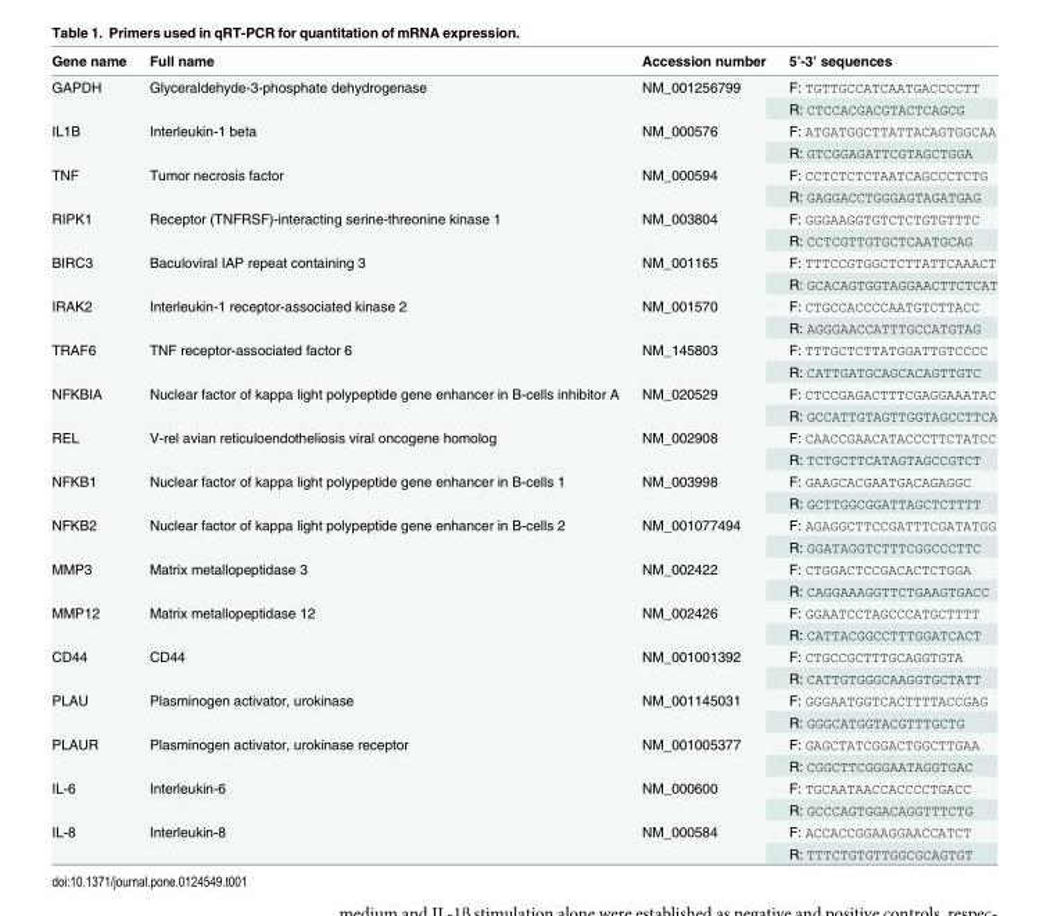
<table><thead><tr><td>Gene name</td><td>Full name</td><td>Accession number</td><td>5’-3’ sequences</td></tr></thead><tbody><tr><td rowspan="2">GAPDH</td><td rowspan="2">Glyceraldehyde-3-phosphate dehydrogenase</td><td rowspan="2">NM_001256799</td><td>F: TGTTGCCATCAATGACCCCTT</td></tr><tr><td>R: CTCCACGACGTACTCAGCG</td></tr><tr><td rowspan="2">IL1B</td><td rowspan="2">Interleukin-1 beta</td><td rowspan="2">NM_000576</td><td>F: ATGATGGCTTATTACAGTGGCAA</td></tr><tr><td>R: GTCGGAGATTCGTAGCTGGA</td></tr><tr><td rowspan="2">TNF</td><td rowspan="2">Tumor necrosis factor</td><td rowspan="2">NM_000594</td><td>F: CCTCTCTCTAATCAGCCCTCTG</td></tr><tr><td>R: GAGGACCTGGGAGTAGATGAG</td></tr><tr><td rowspan="2">RIPK1</td><td rowspan="2">Receptor (TNFRSF)-interacting serine-threonine kinase 1</td><td rowspan="2">NM_003804</td><td>F: GGGAAGGTGTCTCTGTGTTTC</td></tr><tr><td>R: CCTCGTTGTGCTCAATGCAG</td></tr><tr><td rowspan="2">BIRC3</td><td rowspan="2">Baculoviral IAP repeat containing 3</td><td rowspan="2">NM_001165</td><td>F: TTTCCGTGGCTCTTATTCAAACT</td></tr><tr><td>R: GCACAGTGGTAGGAACTTCTCAT</td></tr><tr><td rowspan="2">IRAK2</td><td rowspan="2">Interleukin-1 receptor-associated kinase 2</td><td rowspan="2">NM_001570</td><td>F: CTGCCACCCCAATGTCTTACC</td></tr><tr><td>R: AGGGAACCATTTGCCATGTAG</td></tr><tr><td rowspan="2">TRAF6</td><td rowspan="2">TNF receptor-associated factor 6</td><td rowspan="2">NM_145803</td><td>F: TTTGCTCTTATGGATTGTCCCC</td></tr><tr><td>R: CATTGATGCAGCACAGTTGTC</td></tr><tr><td rowspan="2">NFKBIA</td><td rowspan="2">Nuclear factor of kappa light polypeptide gene enhancer in B-cells inhibitor A</td><td rowspan="2">NM_020529</td><td>F: CTCCGAGACTTTCGAGGAAATAC</td></tr><tr><td>R: GCCATTGTAGTTGGTAGCCTTCA</td></tr><tr><td rowspan="2">REL</td><td rowspan="2">V-rel avian reticuloendotheliosis viral oncogene homolog</td><td rowspan="2">NM_002908</td><td>F: CAACCGAACATACCCTTCTATCC</td></tr><tr><td>R: TCTGCTTCATAGTAGCCGTCT</td></tr><tr><td rowspan="2">NFKB1</td><td rowspan="2">Nuclear factor of kappa light polypeptide gene enhancer in B-cells 1</td><td rowspan="2">NM_003998</td><td>F: GAAGCACGAATGACAGAGGC</td></tr><tr><td>R: GCTTGGCGGATTAGCTCTTTT</td></tr><tr><td rowspan="2">NFKB2</td><td rowspan="2">Nuclear factor of kappa light polypeptide gene enhancer in B-cells 2</td><td rowspan="2">NM_001077494</td><td>F: AGAGGCTTCCGATTTCGATATGG</td></tr><tr><td>R: GGATAGGTCTTTCGGCCCTTC</td></tr><tr><td rowspan="2">MMP3</td><td rowspan="2">Matrix metallopeptidase 3</td><td rowspan="2">NM_002422</td><td>F: CTGGACTCCGACACTCTGGA</td></tr><tr><td>R: CAGGAAAGGTTCTGAAGTGACC</td></tr><tr><td rowspan="2">MMP12</td><td rowspan="2">Matrix metallopeptidase 12</td><td rowspan="2">NM_002426</td><td>F: GGAATCCTAGCCCATGCTTTT</td></tr><tr><td>R: CATTACGGCCTTTGGATCACT</td></tr><tr><td rowspan="2">CD44</td><td rowspan="2">CD44</td><td rowspan="2">NM_001001392</td><td>F: CTGCCGCTTTGCAGGTGTA</td></tr><tr><td>R: CATTGTGGGCAAGGTGCTATT</td></tr><tr><td rowspan="2">PLAU</td><td rowspan="2">Plasminogen activator, urokinase</td><td rowspan="2">NM_001145031</td><td>F: GGGAATGGTCACTTTTACCGAG</td></tr><tr><td>R: GGGCATGGTACGTTTGCTG</td></tr><tr><td rowspan="2">PLAUR</td><td rowspan="2">Plasminogen activator, urokinase receptor</td><td rowspan="2">NM_001005377</td><td>F: GAGCTATCGGACTGGCTTGAA</td></tr><tr><td>R: CGGCTTCGGGAATAGGTGAC</td></tr><tr><td rowspan="2">IL-6</td><td rowspan="2">Interleukin-6</td><td rowspan="2">NM_000600</td><td>F: TGCAATAACCACCCCTGACC</td></tr><tr><td>R: GCCCAGTGGACAGGTTTCTG</td></tr><tr><td rowspan="2">IL-8</td><td rowspan="2">Interleukin-8</td><td rowspan="2">NM_000584</td><td>F: ACCACCGGAAGGAACCATCT</td></tr><tr><td>R: TTTCTGTGTTGGCGCAGTGT</td></tr></tbody></table>